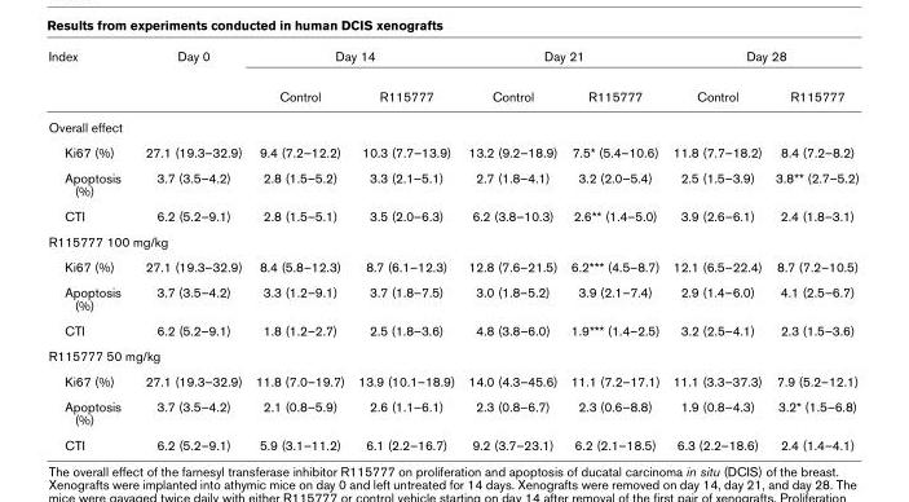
<table><thead><tr><td rowspan="2">Index</td><td rowspan="2">Day 0</td><td colspan="2">Day 14</td><td colspan="2">Day 21</td><td colspan="2">Day 28</td></tr><tr><td>Control</td><td>R115777</td><td>Control</td><td>R115777</td><td>Control</td><td>R115777</td></tr></thead><tbody><tr><td colspan="8">Overall effect</td></tr><tr><td>Ki67 (%)</td><td>27.1 (19.3–32.9)</td><td>9.4 (7.2–12.2)</td><td>10.3 (7.7–13.9)</td><td>13.2 (9.2–18.9)</td><td>7.5* (5.4–10.6)</td><td>11.8 (7.7–18.2)</td><td>8.4 (7.2–8.2)</td></tr><tr><td>Apoptosis (%)</td><td>3.7 (3.5–4.2)</td><td>2.8 (1.5–5.2)</td><td>3.3 (2.1–5.1)</td><td>2.7 (1.8–4.1)</td><td>3.2 (2.0–5.4)</td><td>2.5 (1.5–3.9)</td><td>3.8** (2.7–5.2)</td></tr><tr><td>CTI</td><td>6.2 (5.2–9.1)</td><td>2.8 (1.5–5.1)</td><td>3.5 (2.0–6.3)</td><td>6.2 (3.8–10.3)</td><td>2.6** (1.4–5.0)</td><td>3.9 (2.6–6.1)</td><td>2.4 (1.8–3.1)</td></tr><tr><td colspan="8">R115777 100 mg/kg</td></tr><tr><td>Ki67 (%)</td><td>27.1 (19.3–32.9)</td><td>8.4 (5.8–12.3)</td><td>8.7 (6.1–12.3)</td><td>12.8 (7.6–21.5)</td><td>6.2*** (4.5–8.7)</td><td>12.1 (6.5–22.4)</td><td>8.7 (7.2–10.5)</td></tr><tr><td>Apoptosis (%)</td><td>3.7 (3.5–4.2)</td><td>3.3 (1.2–9.1)</td><td>3.7 (1.8–7.5)</td><td>3.0 (1.8–5.2)</td><td>3.9 (2.1–7.4)</td><td>2.9 (1.4–6.0)</td><td>4.1 (2.5–6.7)</td></tr><tr><td>CTI</td><td>6.2 (5.2–9.1)</td><td>1.8 (1.2–2.7)</td><td>2.5 (1.8–3.6)</td><td>4.8 (3.8–6.0)</td><td>1.9*** (1.4–2.5)</td><td>3.2 (2.5–4.1)</td><td>2.3 (1.5–3.6)</td></tr><tr><td colspan="8">R115777 50 mg/kg</td></tr><tr><td>Ki67 (%)</td><td>27.1 (19.3–32.9)</td><td>11.8 (7.0–19.7)</td><td>13.9 (10.1–18.9)</td><td>14.0 (4.3–45.6)</td><td>11.1 (7.2–17.1)</td><td>11.1 (3.3–37.3)</td><td>7.9 (5.2–12.1)</td></tr><tr><td>Apoptosis (%)</td><td>3.7 (3.5–4.2)</td><td>2.1 (0.8–5.9)</td><td>2.6 (1.1–6.1)</td><td>2.3 (0.8–6.7)</td><td>2.3 (0.6–8.8)</td><td>1.9 (0.8–4.3)</td><td>3.2* (1.5–6.8)</td></tr><tr><td>CTI</td><td>6.2 (5.2–9.1)</td><td>5.9 (3.1–11.2)</td><td>6.1 (2.2–16.7)</td><td>9.2 (3.7–23.1)</td><td>6.2 (2.1–18.5)</td><td>6.3 (2.2–18.6)</td><td>2.4 (1.4–4.1)</td></tr></tbody></table>